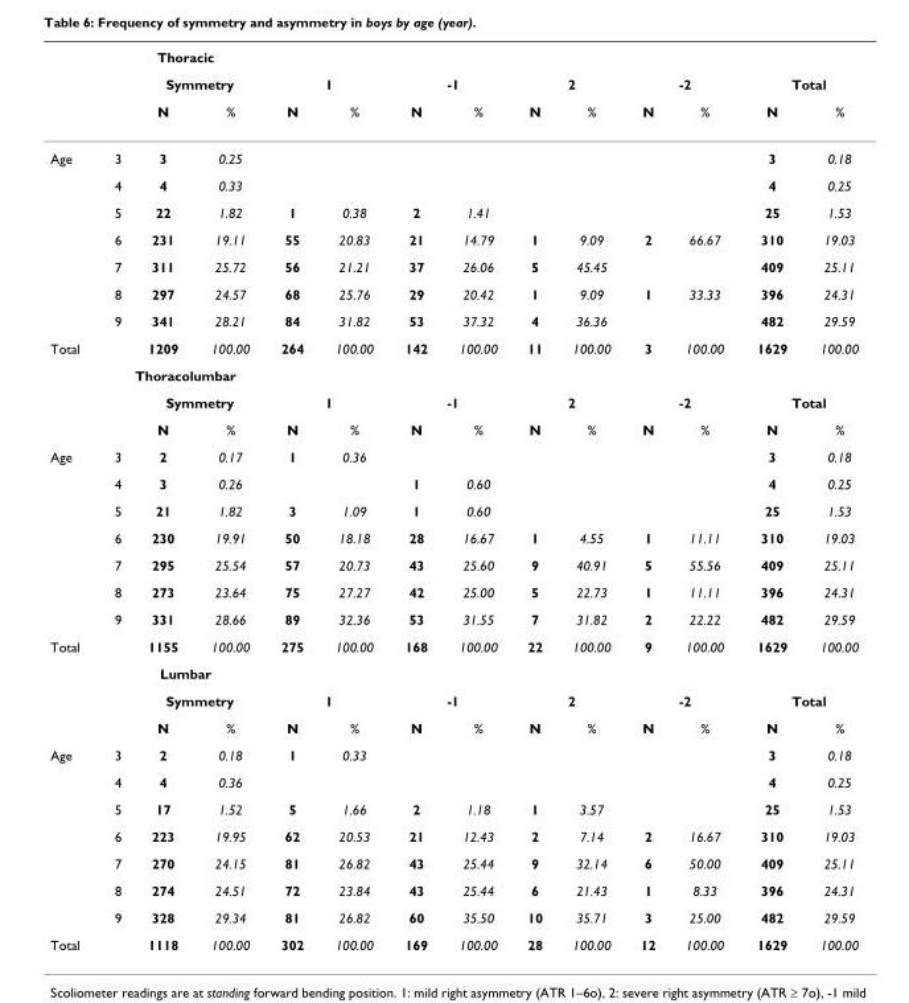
<table><thead><tr><td rowspan="3"></td><td colspan="3">Thoracic</td><td></td><td></td><td></td><td></td><td></td><td></td><td></td><td></td><td></td><td></td></tr><tr><td rowspan="2"></td><td colspan="2">Symmetry</td><td colspan="2">1</td><td colspan="2">-1</td><td colspan="2">2</td><td colspan="2">-2</td><td colspan="2">Total</td></tr><tr><td>N</td><td>%</td><td>N</td><td>%</td><td>N</td><td>%</td><td>N</td><td>%</td><td>N</td><td>%</td><td>N</td><td>%</td></tr></thead><tbody><tr><td rowspan="7">Age</td><td>3</td><td>3</td><td>0.25</td><td></td><td></td><td></td><td></td><td></td><td></td><td></td><td></td><td>3</td><td>0.18</td></tr><tr><td>4</td><td>4</td><td>0.33</td><td></td><td></td><td></td><td></td><td></td><td></td><td></td><td></td><td>4</td><td>0.25</td></tr><tr><td>5</td><td>22</td><td>1.82</td><td>1</td><td>0.38</td><td>2</td><td>1.41</td><td></td><td></td><td></td><td></td><td>25</td><td>1.53</td></tr><tr><td>6</td><td>231</td><td>19.11</td><td>55</td><td>20.83</td><td>21</td><td>14.79</td><td>1</td><td>9.09</td><td>2</td><td>66.67</td><td>310</td><td>19.03</td></tr><tr><td>7</td><td>311</td><td>25.72</td><td>56</td><td>21.21</td><td>37</td><td>26.06</td><td>5</td><td>45.45</td><td></td><td></td><td>409</td><td>25.11</td></tr><tr><td>8</td><td>297</td><td>24.57</td><td>68</td><td>25.76</td><td>29</td><td>20.42</td><td>1</td><td>9.09</td><td>1</td><td>33.33</td><td>396</td><td>24.31</td></tr><tr><td>9</td><td>341</td><td>28.21</td><td>84</td><td>31.82</td><td>53</td><td>37.32</td><td>4</td><td>36.36</td><td></td><td></td><td>482</td><td>29.59</td></tr><tr><td rowspan="4">Total</td><td></td><td>1209</td><td>100.00</td><td>264</td><td>100.00</td><td>142</td><td>100.00</td><td>11</td><td>100.00</td><td>3</td><td>100.00</td><td>1629</td><td>100.00</td></tr><tr><td colspan="3">Thoracolumbar</td><td></td><td></td><td></td><td></td><td></td><td></td><td></td><td></td><td></td><td></td></tr><tr><td></td><td colspan="2">Symmetry</td><td colspan="2">1</td><td colspan="2">-1</td><td colspan="2">2</td><td colspan="2">-2</td><td colspan="2">Total</td></tr><tr><td></td><td>N</td><td>%</td><td>N</td><td>%</td><td>N</td><td>%</td><td>N</td><td>%</td><td>N</td><td>%</td><td>N</td><td>%</td></tr><tr><td rowspan="7">Age</td><td>3</td><td>2</td><td>0.17</td><td>1</td><td>0.36</td><td></td><td></td><td></td><td></td><td></td><td></td><td>3</td><td>0.18</td></tr><tr><td>4</td><td>3</td><td>0.26</td><td></td><td></td><td>1</td><td>0.60</td><td></td><td></td><td></td><td></td><td>4</td><td>0.25</td></tr><tr><td>5</td><td>21</td><td>1.82</td><td>3</td><td>1.09</td><td>1</td><td>0.60</td><td></td><td></td><td></td><td></td><td>25</td><td>1.53</td></tr><tr><td>6</td><td>230</td><td>19.91</td><td>50</td><td>18.18</td><td>28</td><td>16.67</td><td>1</td><td>4.55</td><td>1</td><td>11.11</td><td>310</td><td>19.03</td></tr><tr><td>7</td><td>295</td><td>25.54</td><td>57</td><td>20.73</td><td>43</td><td>25.60</td><td>9</td><td>40.91</td><td>5</td><td>55.56</td><td>409</td><td>25.11</td></tr><tr><td>8</td><td>273</td><td>23.64</td><td>75</td><td>27.27</td><td>42</td><td>25.00</td><td>5</td><td>22.73</td><td>1</td><td>11.11</td><td>396</td><td>24.31</td></tr><tr><td>9</td><td>331</td><td>28.66</td><td>89</td><td>32.36</td><td>53</td><td>31.55</td><td>7</td><td>31.82</td><td>2</td><td>22.22</td><td>482</td><td>29.59</td></tr><tr><td rowspan="4">Total</td><td></td><td>1155</td><td>100.00</td><td>275</td><td>100.00</td><td>168</td><td>100.00</td><td>22</td><td>100.00</td><td>9</td><td>100.00</td><td>1629</td><td>100.00</td></tr><tr><td colspan="3">Lumbar</td><td></td><td></td><td></td><td></td><td></td><td></td><td></td><td></td><td></td><td></td></tr><tr><td></td><td colspan="2">Symmetry</td><td colspan="2">1</td><td colspan="2">-1</td><td colspan="2">2</td><td colspan="2">-2</td><td colspan="2">Total</td></tr><tr><td></td><td>N</td><td>%</td><td>N</td><td>%</td><td>N</td><td>%</td><td>N</td><td>%</td><td>N</td><td>%</td><td>N</td><td>%</td></tr><tr><td rowspan="7">Age</td><td>3</td><td>2</td><td>0.18</td><td>1</td><td>0.33</td><td></td><td></td><td></td><td></td><td></td><td></td><td>3</td><td>0.18</td></tr><tr><td>4</td><td>4</td><td>0.36</td><td></td><td></td><td></td><td></td><td></td><td></td><td></td><td></td><td>4</td><td>0.25</td></tr><tr><td>5</td><td>17</td><td>1.52</td><td>5</td><td>1.66</td><td>2</td><td>1.18</td><td>1</td><td>3.57</td><td></td><td></td><td>25</td><td>1.53</td></tr><tr><td>6</td><td>223</td><td>19.95</td><td>62</td><td>20.53</td><td>21</td><td>12.43</td><td>2</td><td>7.14</td><td>2</td><td>16.67</td><td>310</td><td>19.03</td></tr><tr><td>7</td><td>270</td><td>24.15</td><td>81</td><td>26.82</td><td>43</td><td>25.44</td><td>9</td><td>32.14</td><td>6</td><td>50.00</td><td>409</td><td>25.11</td></tr><tr><td>8</td><td>274</td><td>24.51</td><td>72</td><td>23.84</td><td>43</td><td>25.44</td><td>6</td><td>21.43</td><td>1</td><td>8.33</td><td>396</td><td>24.31</td></tr><tr><td>9</td><td>328</td><td>29.34</td><td>81</td><td>26.82</td><td>60</td><td>35.50</td><td>10</td><td>35.71</td><td>3</td><td>25.00</td><td>482</td><td>29.59</td></tr><tr><td>Total</td><td></td><td>1118</td><td>100.00</td><td>302</td><td>100.00</td><td>169</td><td>100.00</td><td>28</td><td>100.00</td><td>12</td><td>100.00</td><td>1629</td><td>100.00</td></tr></tbody></table>